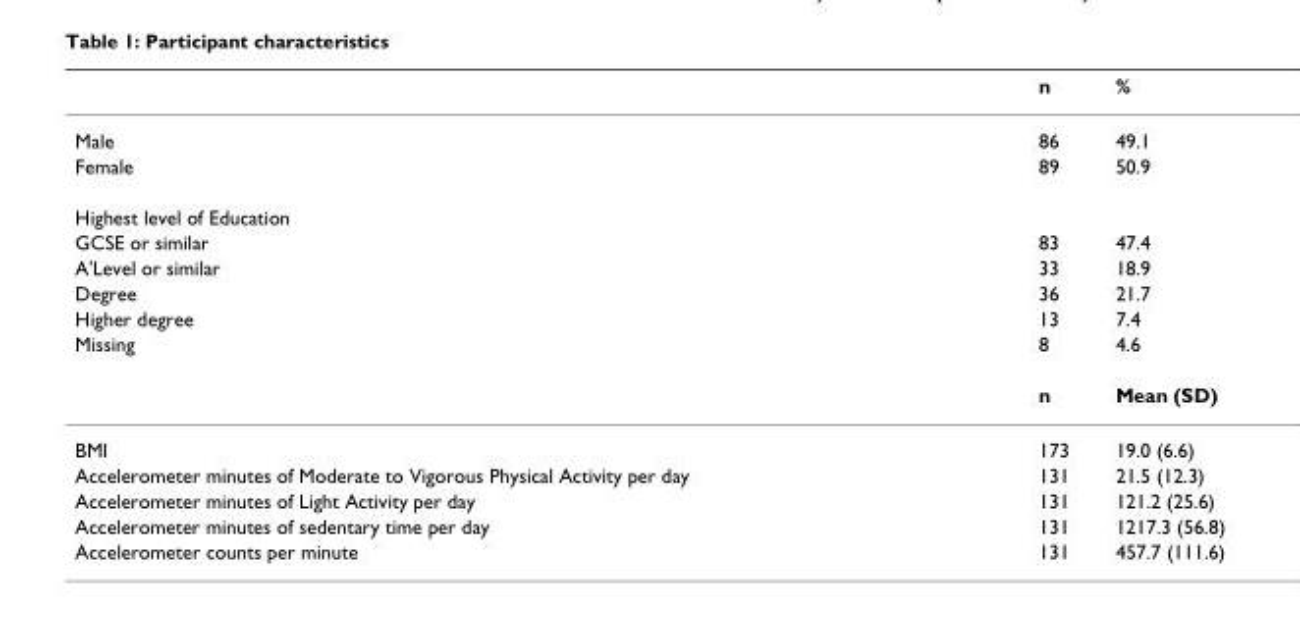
<table><thead><tr><td></td><td>n</td><td>%</td></tr></thead><tbody><tr><td>Male</td><td>86</td><td>49.1</td></tr><tr><td>Female</td><td>89</td><td>50.9</td></tr><tr><td colspan="3">Highest level of Education</td></tr><tr><td>GCSE or similar</td><td>83</td><td>47.4</td></tr><tr><td>A&#x27;Level or similar</td><td>33</td><td>18.9</td></tr><tr><td>Degree</td><td>36</td><td>21.7</td></tr><tr><td>Higher degree</td><td>13</td><td>7.4</td></tr><tr><td rowspan="2">Missing</td><td>8</td><td>4.6</td></tr><tr><td>n</td><td>Mean (SD)</td></tr><tr><td>BMI</td><td>173</td><td>19.0 (6.6)</td></tr><tr><td>Accelerometer minutes of Moderate to Vigorous Physical Activity per day</td><td>131</td><td>21.5 (12.3)</td></tr><tr><td>Accelerometer minutes of Light Activity per day</td><td>131</td><td>121.2 (25.6)</td></tr><tr><td>Accelerometer minutes of sedentary time per day</td><td>131</td><td>1217.3 (56.8)</td></tr><tr><td>Accelerometer counts per minute</td><td>131</td><td>457.7 (111.6)</td></tr></tbody></table>